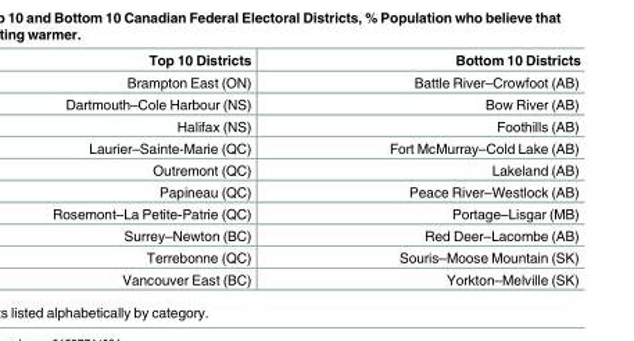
<table><thead><tr><td>Top 10 Districts</td><td>Bottom 10 Districts</td></tr></thead><tbody><tr><td>Brampton East (ON)</td><td>Battle River–Crowfoot (AB)</td></tr><tr><td>Dartmouth–Cole Harbour (NS)</td><td>Bow River (AB)</td></tr><tr><td>Halifax (NS)</td><td>Foothills (AB)</td></tr><tr><td>Laurier–Sainte-Marie (QC)</td><td>Fort McMurray–Cold Lake (AB)</td></tr><tr><td>Outremont (QC)</td><td>Lakeland (AB)</td></tr><tr><td>Papineau (QC)</td><td>Peace River–Westlock (AB)</td></tr><tr><td>Rosemont–La Petite-Patrie (QC)</td><td>Portage–Lisgar (MB)</td></tr><tr><td>Surrey–Newton (BC)</td><td>Red Deer–Lacombe (AB)</td></tr><tr><td>Terrebonne (QC)</td><td>Souris–Moose Mountain (SK)</td></tr><tr><td>Vancouver East (BC)</td><td>Yorkton–Melville (SK)</td></tr></tbody></table>